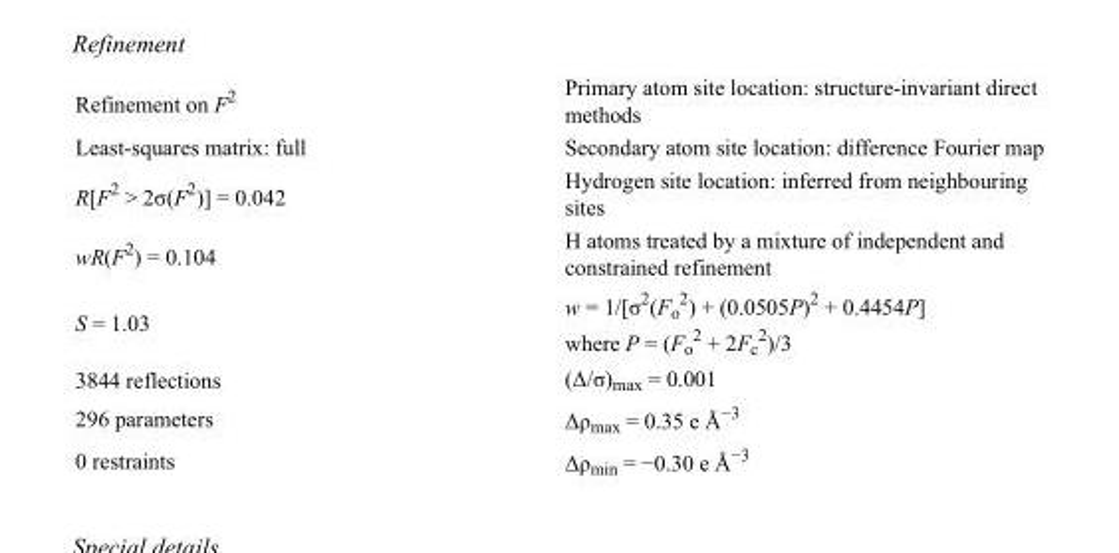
<table><tbody><tr><td>Refinement on F<sup>2</sup></td><td>Primary atom site location: structure-invariant direct methods</td></tr><tr><td>Least-squares matrix: full</td><td>Secondary atom site location: difference Fourier map</td></tr><tr><td>R[F<sup>2</sup> &gt; 2σ(F<sup>2</sup>)] = 0.042</td><td>Hydrogen site location: inferred from neighbouring sites</td></tr><tr><td>wR(F<sup>2</sup>) = 0.104</td><td>H atoms treated by a mixture of independent and constrained refinement</td></tr><tr><td>S = 1.03</td><td>w = 1/[σ<sup>2</sup>(F<sub>o</sub> <sup>2</sup>) + (0.0505P)<sup>2</sup> + 0.4454P] where P = (F<sub>o</sub> <sup>2</sup> + 2F<sub>c</sub> <sup>2</sup>)/3</td></tr><tr><td>3844 reflections</td><td>(Δ/σ)<sub>max</sub> = 0.001</td></tr><tr><td>296 parameters</td><td>Δρ<sub>max</sub> = 0.35 e Å<sup>−3</sup></td></tr><tr><td>0 restraints</td><td>Δρ<sub>min</sub> = −0.30 e Å<sup>−3</sup></td></tr></tbody></table>